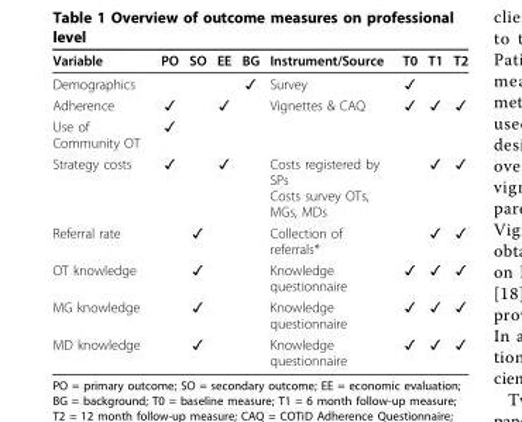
<table><thead><tr><td>Variable</td><td>PO</td><td>SO</td><td>EE</td><td>BG</td><td>Instrument/Source</td><td>T0</td><td>T1</td><td>T2</td></tr></thead><tbody><tr><td>Demographics</td><td></td><td></td><td></td><td>✓</td><td>Survey</td><td>✓</td><td></td><td></td></tr><tr><td>Adherence</td><td>✓</td><td></td><td>✓</td><td></td><td>Vignettes &amp; CAQ</td><td>✓</td><td>✓</td><td>✓</td></tr><tr><td>Use of Community OT</td><td>✓</td><td></td><td></td><td></td><td></td><td></td><td></td><td></td></tr><tr><td>Strategy costs</td><td>✓</td><td></td><td>✓</td><td></td><td>Costs registered by SPs Costs survey OTs, MGs, MDs</td><td></td><td>✓</td><td>✓</td></tr><tr><td>Referral rate</td><td></td><td>✓</td><td></td><td></td><td>Collection of referrals*</td><td></td><td>✓</td><td>✓</td></tr><tr><td>OT knowledge</td><td></td><td>✓</td><td></td><td></td><td>Knowledge questionnaire</td><td>✓</td><td>✓</td><td>✓</td></tr><tr><td>MG knowledge</td><td></td><td>✓</td><td></td><td></td><td>Knowledge questionnaire</td><td>✓</td><td>✓</td><td>✓</td></tr><tr><td>MD knowledge</td><td></td><td>✓</td><td></td><td></td><td>Knowledge questionnaire</td><td>✓</td><td>✓</td><td>✓</td></tr></tbody></table>